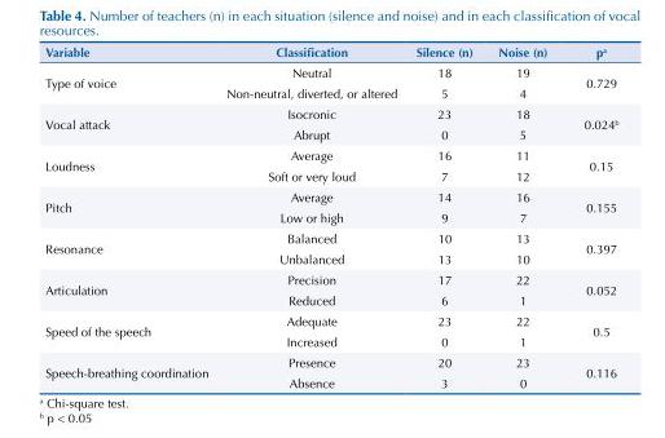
<table><thead><tr><td>Variable</td><td>Classification</td><td>Silence (n)</td><td>Noise (n)</td><td>p<sup>a</sup></td></tr></thead><tbody><tr><td rowspan="2">Type of voice</td><td>Neutral</td><td>18</td><td>19</td><td rowspan="2">0.729</td></tr><tr><td>Non-neutral, diverted, or altered</td><td>5</td><td>4</td></tr><tr><td rowspan="2">Vocal attack</td><td>Isocronic</td><td>23</td><td>18</td><td rowspan="2">0.024<sup>b</sup></td></tr><tr><td>Abrupt</td><td>0</td><td>5</td></tr><tr><td rowspan="2">Loudness</td><td>Average</td><td>16</td><td>11</td><td rowspan="2">0.15</td></tr><tr><td>Soft or very loud</td><td>7</td><td>12</td></tr><tr><td rowspan="2">Pitch</td><td>Average</td><td>14</td><td>16</td><td rowspan="2">0.155</td></tr><tr><td>Low or high</td><td>9</td><td>7</td></tr><tr><td rowspan="2">Resonance</td><td>Balanced</td><td>10</td><td>13</td><td rowspan="2">0.397</td></tr><tr><td>Unbalanced</td><td>13</td><td>10</td></tr><tr><td rowspan="2">Articulation</td><td>Precision</td><td>17</td><td>22</td><td rowspan="2">0.052</td></tr><tr><td>Reduced</td><td>6</td><td>1</td></tr><tr><td rowspan="2">Speed of the speech</td><td>Adequate</td><td>23</td><td>22</td><td rowspan="2">0.5</td></tr><tr><td>Increased</td><td>0</td><td>1</td></tr><tr><td rowspan="2">Speech-breathing coordination</td><td>Presence</td><td>20</td><td>23</td><td rowspan="2">0.116</td></tr><tr><td>Absence</td><td>3</td><td>0</td></tr></tbody></table>